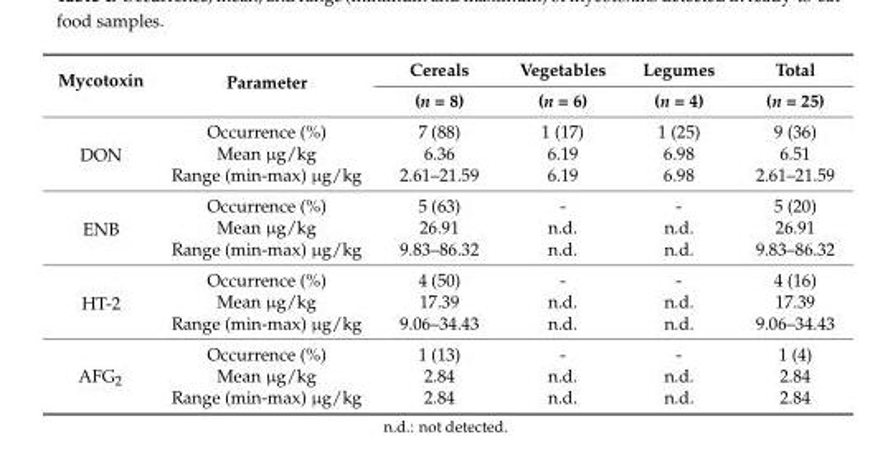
<table><thead><tr><td rowspan="2">Mycotoxin</td><td rowspan="2">Parameter</td><td rowspan="2">Cereals (n = 8)</td><td rowspan="2">Vegetables (n = 6)</td><td rowspan="2">Legumes (n = 4)</td><td rowspan="2">Total (n = 25)</td></tr><tr></tr></thead><tbody><tr><td rowspan="3">DON</td><td>Occurrence (%)</td><td>7 (88)</td><td>1 (17)</td><td>1 (25)</td><td>9 (36)</td></tr><tr><td>Mean µg/kg</td><td>6.36</td><td>6.19</td><td>6.98</td><td>6.51</td></tr><tr><td>Range (min-max) µg/kg</td><td>2.61–21.59</td><td>6.19</td><td>6.98</td><td>2.61–21.59</td></tr><tr><td rowspan="3">ENB</td><td>Occurrence (%)</td><td>5 (63)</td><td>-</td><td>-</td><td>5 (20)</td></tr><tr><td>Mean µg/kg</td><td>26.91</td><td>n.d.</td><td>n.d.</td><td>26.91</td></tr><tr><td>Range (min-max) µg/kg</td><td>9.83–86.32</td><td>n.d.</td><td>n.d.</td><td>9.83–86.32</td></tr><tr><td rowspan="3">HT-2</td><td>Occurrence (%)</td><td>4 (50)</td><td>-</td><td>-</td><td>4 (16)</td></tr><tr><td>Mean µg/kg</td><td>17.39</td><td>n.d.</td><td>n.d.</td><td>17.39</td></tr><tr><td>Range (min-max) µg/kg</td><td>9.06–34.43</td><td>n.d.</td><td>n.d.</td><td>9.06–34.43</td></tr><tr><td rowspan="3">AFG<sub>2</sub></td><td>Occurrence (%)</td><td>1 (13)</td><td>-</td><td>-</td><td>1 (4)</td></tr><tr><td>Mean µg/kg</td><td>2.84</td><td>n.d.</td><td>n.d.</td><td>2.84</td></tr><tr><td>Range (min-max) µg/kg</td><td>2.84</td><td>n.d.</td><td>n.d.</td><td>2.84</td></tr></tbody></table>